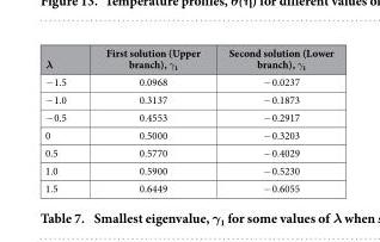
<table><thead><tr><td>λ</td><td>First solution (Upper branch), γ<sub>1</sub></td><td>Second solution (Lower branch), γ<sub>1</sub></td></tr></thead><tbody><tr><td>− 1.5</td><td>0.0968</td><td>− 0.0237</td></tr><tr><td>− 1.0</td><td>0.3137</td><td>− 0.1873</td></tr><tr><td>− 0.5</td><td>0.4553</td><td>− 0.2917</td></tr><tr><td>0</td><td>0.5000</td><td>− 0.3203</td></tr><tr><td>0.5</td><td>0.5770</td><td>− 0.4029</td></tr><tr><td>1.0</td><td>0.5900</td><td>− 0.5230</td></tr><tr><td>1.5</td><td>0.6449</td><td>− 0.6055</td></tr></tbody></table>